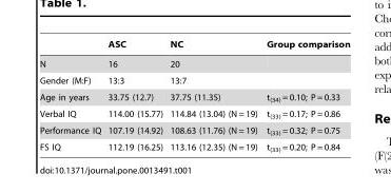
<table><thead><tr><td></td><td>ASC</td><td>NC</td><td>Group comparison</td></tr></thead><tbody><tr><td>N</td><td>16</td><td>20</td><td></td></tr><tr><td>Gender (M:F)</td><td>13:3</td><td>13:7</td><td></td></tr><tr><td>Age in years</td><td>33.75 (12.7)</td><td>37.75 (11.35)</td><td>t<sub>(34)</sub> = 0.10; P = 0.33</td></tr><tr><td>Verbal IQ</td><td>114.00 (15.77)</td><td>114.84 (13.04) (N = 19)</td><td>t<sub>(33)</sub> = 0.17; P = 0.86</td></tr><tr><td>Performance IQ</td><td>107.19 (14.92)</td><td>108.63 (11.76) (N = 19)</td><td>t<sub>(33)</sub> = 0.32; P = 0.75</td></tr><tr><td>FS IQ</td><td>112.19 (16.25)</td><td>113.16 (12.35) (N = 19)</td><td>t<sub>(33)</sub> = 0.20; P = 0.84</td></tr></tbody></table>